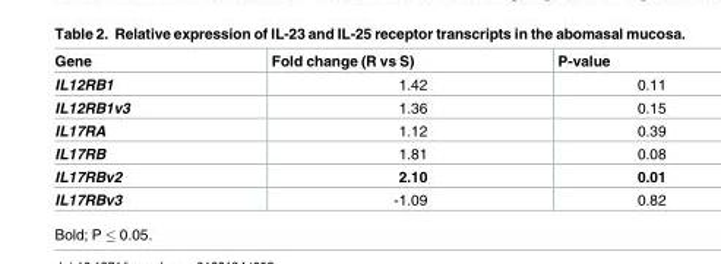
<table><thead><tr><td>Gene</td><td>Fold change (R vs S)</td><td>P-value</td></tr></thead><tbody><tr><td>IL12RB1</td><td>1.42</td><td>0.11</td></tr><tr><td>IL12RB1v3</td><td>1.36</td><td>0.15</td></tr><tr><td>IL17RA</td><td>1.12</td><td>0.39</td></tr><tr><td>IL17RB</td><td>1.81</td><td>0.08</td></tr><tr><td>IL17RBv2</td><td>2.10</td><td>0.01</td></tr><tr><td>IL17RBv3</td><td>-1.09</td><td>0.82</td></tr></tbody></table>